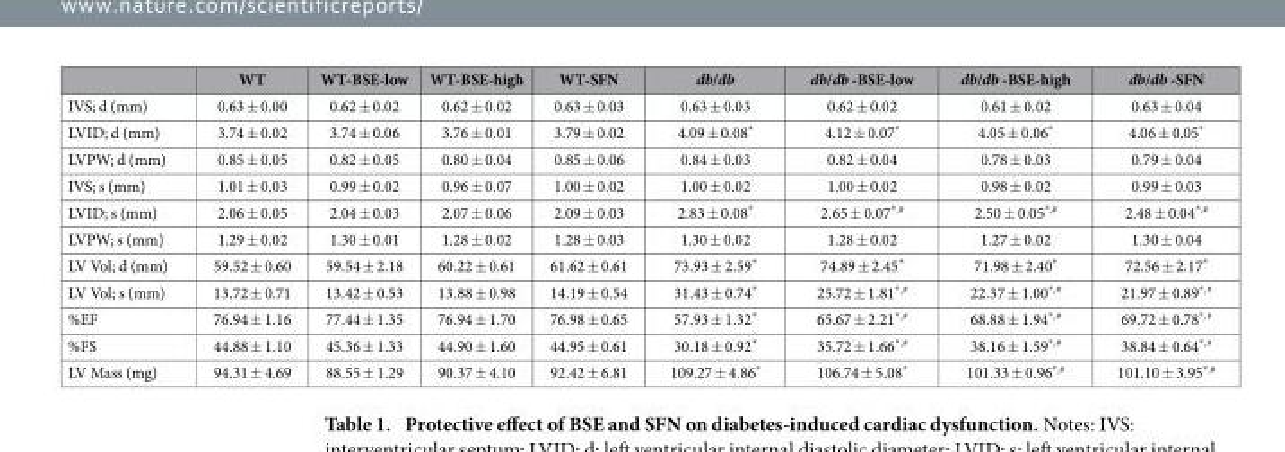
<table><thead><tr><td></td><td>WT</td><td>WT-BSE-low</td><td>WT-BSE-high</td><td>WT-SFN</td><td>db/db</td><td>db/db -BSE-low</td><td>db/db -BSE-high</td><td>db/db -SFN</td></tr></thead><tbody><tr><td>IVS; d (mm)</td><td>0.63 ± 0.00</td><td>0.62 ± 0.02</td><td>0.62 ± 0.02</td><td>0.63 ± 0.03</td><td>0.63 ± 0.03</td><td>0.62 ± 0.02</td><td>0.61 ± 0.02</td><td>0.63 ± 0.04</td></tr><tr><td>LVID; d (mm)</td><td>3.74 ± 0.02</td><td>3.74 ± 0.06</td><td>3.76 ± 0.01</td><td>3.79 ± 0.02</td><td>4.09 ± 0.08*</td><td>4.12 ± 0.07*</td><td>4.05 ± 0.06*</td><td>4.06 ± 0.05*</td></tr><tr><td>LVPW; d (mm)</td><td>0.85 ± 0.05</td><td>0.82 ± 0.05</td><td>0.80 ± 0.04</td><td>0.85 ± 0.06</td><td>0.84 ± 0.03</td><td>0.82 ± 0.04</td><td>0.78 ± 0.03</td><td>0.79 ± 0.04</td></tr><tr><td>IVS; s (mm)</td><td>1.01 ± 0.03</td><td>0.99 ± 0.02</td><td>0.96 ± 0.07</td><td>1.00 ± 0.02</td><td>1.00 ± 0.02</td><td>1.00 ± 0.02</td><td>0.98 ± 0.02</td><td>0.99 ± 0.03</td></tr><tr><td>LVID; s (mm)</td><td>2.06 ± 0.05</td><td>2.04 ± 0.03</td><td>2.07 ± 0.06</td><td>2.09 ± 0.03</td><td>2.83 ± 0.08*</td><td>2.65 ± 0.07*,#</td><td>2.50 ± 0.05*,#</td><td>2.48 ± 0.04*,#</td></tr><tr><td>LVPW; s (mm)</td><td>1.29 ± 0.02</td><td>1.30 ± 0.01</td><td>1.28 ± 0.02</td><td>1.28 ± 0.03</td><td>1.30 ± 0.02</td><td>1.28 ± 0.02</td><td>1.27 ± 0.02</td><td>1.30 ± 0.04</td></tr><tr><td>LV Vol; d (mm)</td><td>59.52 ± 0.60</td><td>59.54 ± 2.18</td><td>60.22 ± 0.61</td><td>61.62 ± 0.61</td><td>73.93 ± 2.59*</td><td>74.89 ± 2.45*</td><td>71.98 ± 2.40*</td><td>72.56 ± 2.17*</td></tr><tr><td>LV Vol; s (mm)</td><td>13.72 ± 0.71</td><td>13.42 ± 0.53</td><td>13.88 ± 0.98</td><td>14.19 ± 0.54</td><td>31.43 ± 0.74*</td><td>25.72 ± 1.81*,#</td><td>22.37 ± 1.00*,#</td><td>21.97 ± 0.89*,#</td></tr><tr><td>%EF</td><td>76.94 ± 1.16</td><td>77.44 ± 1.35</td><td>76.94 ± 1.70</td><td>76.98 ± 0.65</td><td>57.93 ± 1.32*</td><td>65.67 ± 2.21*,#</td><td>68.88 ± 1.94*,#</td><td>69.72 ± 0.78*,#</td></tr><tr><td>%FS</td><td>44.88 ± 1.10</td><td>45.36 ± 1.33</td><td>44.90 ± 1.60</td><td>44.95 ± 0.61</td><td>30.18 ± 0.92*</td><td>35.72 ± 1.66*,#</td><td>38.16 ± 1.59*,#</td><td>38.84 ± 0.64*,#</td></tr><tr><td>LV Mass (mg)</td><td>94.31 ± 4.69</td><td>88.55 ± 1.29</td><td>90.37 ± 4.10</td><td>92.42 ± 6.81</td><td>109.27 ± 4.86*</td><td>106.74 ± 5.08*</td><td>101.33 ± 0.96*,#</td><td>101.10 ± 3.95*,#</td></tr></tbody></table>